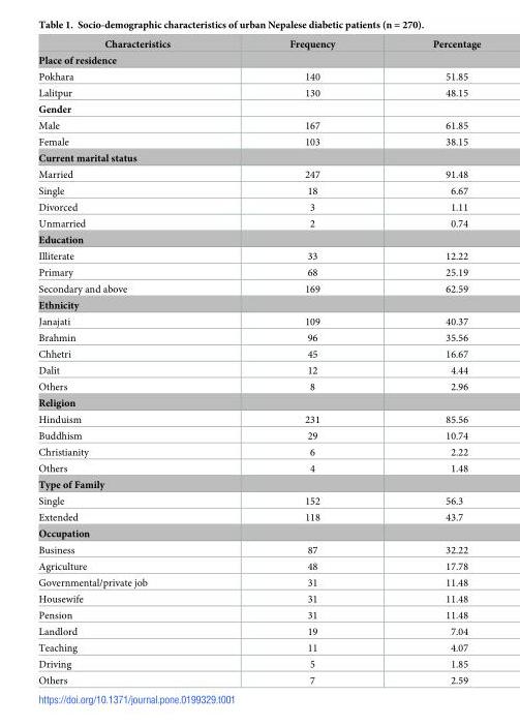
<table><thead><tr><td>Characteristics</td><td>Frequency</td><td>Percentage</td></tr></thead><tbody><tr><td colspan="3">Place of residence</td></tr><tr><td>Pokhara</td><td>140</td><td>51.85</td></tr><tr><td>Lalitpur</td><td>130</td><td>48.15</td></tr><tr><td colspan="3">Gender</td></tr><tr><td>Male</td><td>167</td><td>61.85</td></tr><tr><td>Female</td><td>103</td><td>38.15</td></tr><tr><td colspan="3">Current marital status</td></tr><tr><td>Married</td><td>247</td><td>91.48</td></tr><tr><td>Single</td><td>18</td><td>6.67</td></tr><tr><td>Divorced</td><td>3</td><td>1.11</td></tr><tr><td>Unmarried</td><td>2</td><td>0.74</td></tr><tr><td colspan="3">Education</td></tr><tr><td>Illiterate</td><td>33</td><td>12.22</td></tr><tr><td>Primary</td><td>68</td><td>25.19</td></tr><tr><td>Secondary and above</td><td>169</td><td>62.59</td></tr><tr><td colspan="3">Ethnicity</td></tr><tr><td>Janajati</td><td>109</td><td>40.37</td></tr><tr><td>Brahmin</td><td>96</td><td>35.56</td></tr><tr><td>Chhetri</td><td>45</td><td>16.67</td></tr><tr><td>Dalit</td><td>12</td><td>4.44</td></tr><tr><td>Others</td><td>8</td><td>2.96</td></tr><tr><td colspan="3">Religion</td></tr><tr><td>Hinduism</td><td>231</td><td>85.56</td></tr><tr><td>Buddhism</td><td>29</td><td>10.74</td></tr><tr><td>Christianity</td><td>6</td><td>2.22</td></tr><tr><td>Others</td><td>4</td><td>1.48</td></tr><tr><td colspan="3">Type of Family</td></tr><tr><td>Single</td><td>152</td><td>56.3</td></tr><tr><td>Extended</td><td>118</td><td>43.7</td></tr><tr><td colspan="3">Occupation</td></tr><tr><td>Business</td><td>87</td><td>32.22</td></tr><tr><td>Agriculture</td><td>48</td><td>17.78</td></tr><tr><td>Governmental/private job</td><td>31</td><td>11.48</td></tr><tr><td>Housewife</td><td>31</td><td>11.48</td></tr><tr><td>Pension</td><td>31</td><td>11.48</td></tr><tr><td>Landlord</td><td>19</td><td>7.04</td></tr><tr><td>Teaching</td><td>11</td><td>4.07</td></tr><tr><td>Driving</td><td>5</td><td>1.85</td></tr><tr><td>Others</td><td>7</td><td>2.59</td></tr></tbody></table>